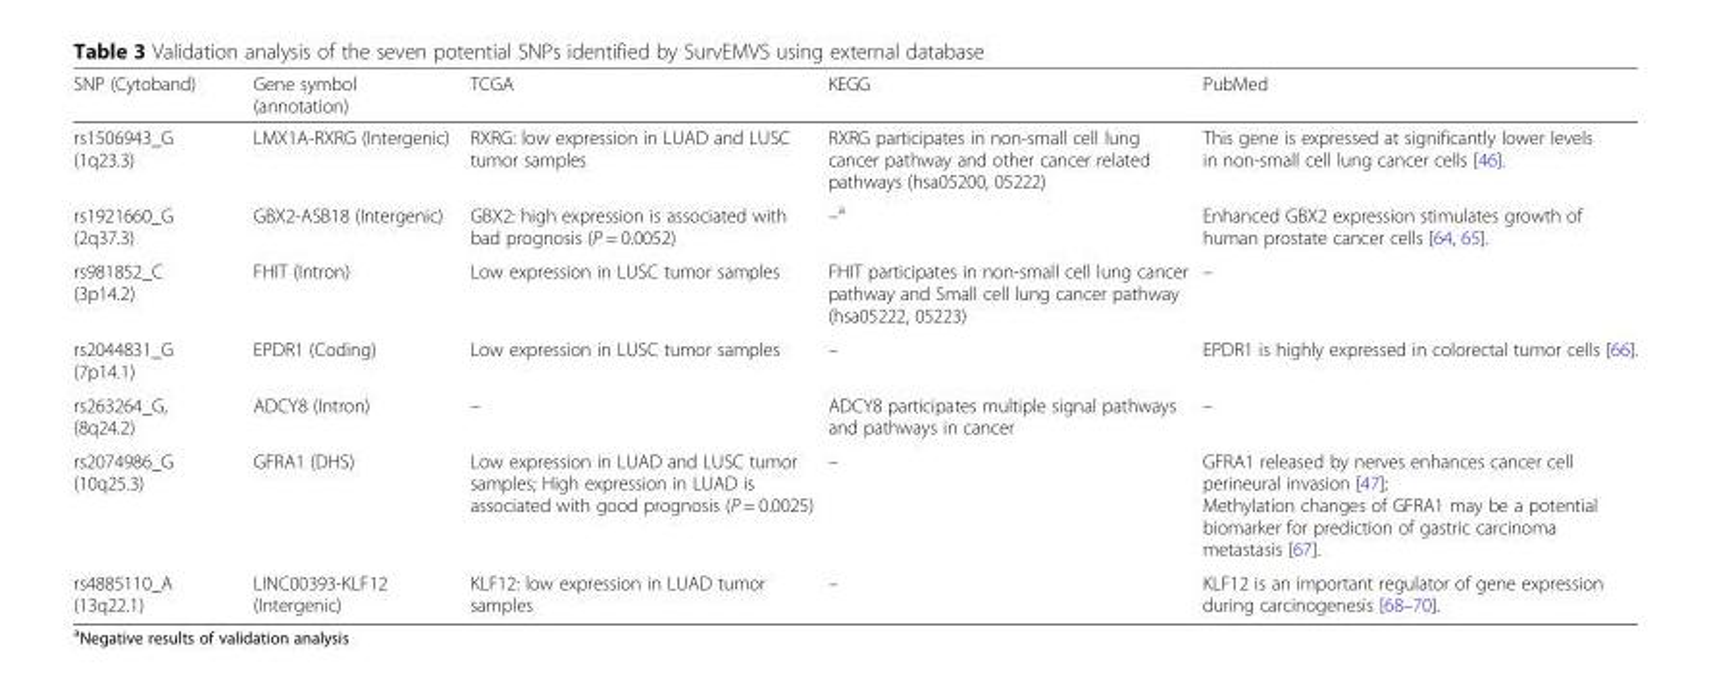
<table><thead><tr><td>SNP (Cytoband)</td><td>Gene symbol (annotation)</td><td>TCGA</td><td>KEGG</td><td>PubMed</td></tr></thead><tbody><tr><td>rs1506943_G (1q23.3)</td><td>LMX1A-RXRG (Intergenic)</td><td>RXRG: low expression in LUAD and LUSC tumor samples</td><td>RXRG participates in non-small cell lung cancer pathway and other cancer related pathways (hsa05200, 05222)</td><td>This gene is expressed at significantly lower levels in non-small cell lung cancer cells [46].</td></tr><tr><td>rs1921660_G (2q37.3)</td><td>GBX2-ASB18 (Intergenic)</td><td>GBX2: high expression is associated with bad prognosis (P = 0.0052)</td><td>–<sup>a</sup></td><td>Enhanced GBX2 expression stimulates growth of human prostate cancer cells [64, 65].</td></tr><tr><td>rs981852_C (3p14.2)</td><td>FHIT (Intron)</td><td>Low expression in LUSC tumor samples</td><td>FHIT participates in non-small cell lung cancer pathway and Small cell lung cancer pathway (hsa05222, 05223)</td><td>–</td></tr><tr><td>rs2044831_G (7p14.1)</td><td>EPDR1 (Coding)</td><td>Low expression in LUSC tumor samples</td><td>–</td><td>EPDR1 is highly expressed in colorectal tumor cells [66].</td></tr><tr><td>rs263264_G, (8q24.2)</td><td>ADCY8 (Intron)</td><td>–</td><td>ADCY8 participates multiple signal pathways and pathways in cancer</td><td>–</td></tr><tr><td>rs2074986_G (10q25.3)</td><td>GFRA1 (DHS)</td><td>Low expression in LUAD and LUSC tumor samples; High expression in LUAD is associated with good prognosis (P = 0.0025)</td><td>–</td><td>GFRA1 released by nerves enhances cancer cell perineural invasion [47]; Methylation changes of GFRA1 may be a potential biomarker for prediction of gastric carcinoma metastasis [67].</td></tr><tr><td>rs4885110_A (13q22.1)</td><td>LINC00393-KLF12 (Intergenic)</td><td>KLF12: low expression in LUAD tumor samples</td><td>–</td><td>KLF12 is an important regulator of gene expression during carcinogenesis [68–70].</td></tr></tbody></table>